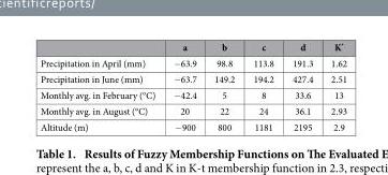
<table><thead><tr><td></td><td>a</td><td>b</td><td>c</td><td>d</td><td>K*</td></tr></thead><tbody><tr><td>Precipitation in April (mm)</td><td>− 63.9</td><td>98.8</td><td>113.8</td><td>191.3</td><td>1.62</td></tr><tr><td>Precipitation in June (mm)</td><td>− 63.7</td><td>149.2</td><td>194.2</td><td>427.4</td><td>2.51</td></tr><tr><td>Monthly avg. in February (°C)</td><td>− 42.4</td><td>5</td><td>8</td><td>33.6</td><td>13</td></tr><tr><td>Monthly avg. in August (°C)</td><td>20</td><td>22</td><td>24</td><td>36.1</td><td>2.93</td></tr><tr><td>Altitude (m)</td><td>− 900</td><td>800</td><td>1181</td><td>2195</td><td>2.9</td></tr></tbody></table>